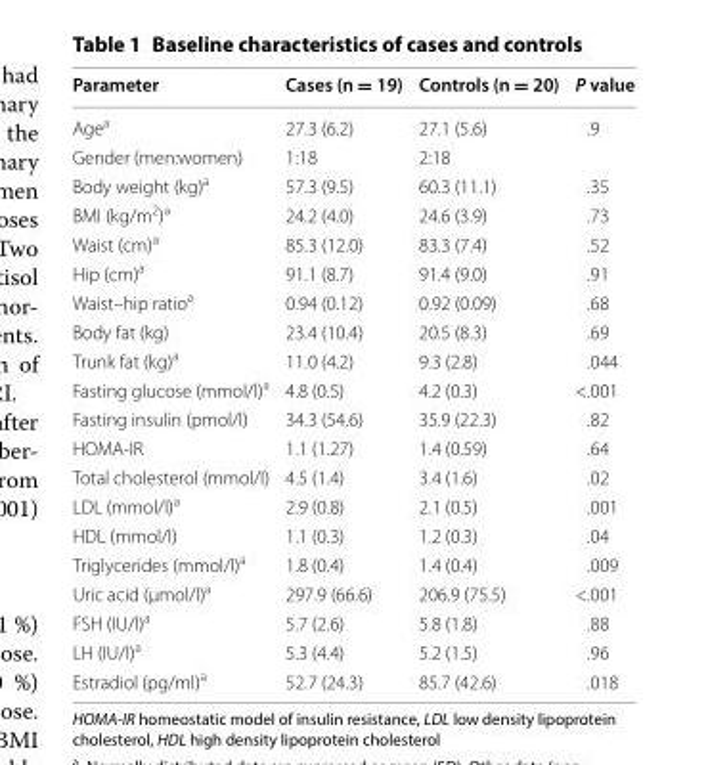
<table><thead><tr><td>Parameter</td><td>Cases (n = 19)</td><td>Controls (n = 20)</td><td>P value</td></tr></thead><tbody><tr><td>Age<sup>a</sup></td><td>27.3 (6.2)</td><td>27.1 (5.6)</td><td>.9</td></tr><tr><td>Gender (men:women)</td><td>1:18</td><td>2:18</td><td></td></tr><tr><td>Body weight (kg)<sup>a</sup></td><td>57.3 (9.5)</td><td>60.3 (11.1)</td><td>.35</td></tr><tr><td>BMI (kg/m<sup>2</sup>)<sup>a</sup></td><td>24.2 (4.0)</td><td>24.6 (3.9)</td><td>.73</td></tr><tr><td>Waist (cm)<sup>a</sup></td><td>85.3 (12.0)</td><td>83.3 (7.4)</td><td>.52</td></tr><tr><td>Hip (cm)<sup>a</sup></td><td>91.1 (8.7)</td><td>91.4 (9.0)</td><td>.91</td></tr><tr><td>Waist–hip ratio<sup>a</sup></td><td>0.94 (0.12)</td><td>0.92 (0.09)</td><td>.68</td></tr><tr><td>Body fat (kg)</td><td>23.4 (10.4)</td><td>20.5 (8.3)</td><td>.69</td></tr><tr><td>Trunk fat (kg)<sup>a</sup></td><td>11.0 (4.2)</td><td>9.3 (2.8)</td><td>.044</td></tr><tr><td>Fasting glucose (mmol/l)<sup>a</sup></td><td>4.8 (0.5)</td><td>4.2 (0.3)</td><td>&lt;.001</td></tr><tr><td>Fasting insulin (pmol/l)</td><td>34.3 (54.6)</td><td>35.9 (22.3)</td><td>.82</td></tr><tr><td>HOMA-IR</td><td>1.1 (1.27)</td><td>1.4 (0.59)</td><td>.64</td></tr><tr><td>Total cholesterol (mmol/l)</td><td>4.5 (1.4)</td><td>3.4 (1.6)</td><td>.02</td></tr><tr><td>LDL (mmol/l)<sup>a</sup></td><td>2.9 (0.8)</td><td>2.1 (0.5)</td><td>.001</td></tr><tr><td>HDL (mmol/l)</td><td>1.1 (0.3)</td><td>1.2 (0.3)</td><td>.04</td></tr><tr><td>Triglycerides (mmol/l)<sup>a</sup></td><td>1.8 (0.4)</td><td>1.4 (0.4)</td><td>.009</td></tr><tr><td>Uric acid (µmol/l)<sup>a</sup></td><td>297.9 (66.6)</td><td>206.9 (75.5)</td><td>&lt;.001</td></tr><tr><td>FSH (IU/l)<sup>a</sup></td><td>5.7 (2.6)</td><td>5.8 (1.8)</td><td>.88</td></tr><tr><td>LH (IU/l)<sup>a</sup></td><td>5.3 (4.4)</td><td>5.2 (1.5)</td><td>.96</td></tr><tr><td>Estradiol (pg/ml)<sup>a</sup></td><td>52.7 (24.3)</td><td>85.7 (42.6)</td><td>.018</td></tr></tbody></table>